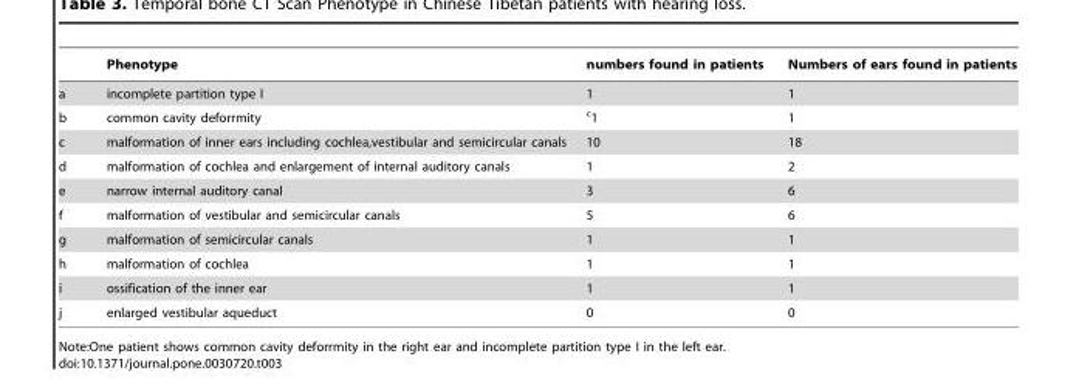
<table><thead><tr><td></td><td>Phenotype</td><td>numbers found in patients</td><td>Numbers of ears found in patients</td></tr></thead><tbody><tr><td>a</td><td>incomplete partition type I</td><td>1</td><td>1</td></tr><tr><td>b</td><td>common cavity deforrmity</td><td><sup>c</sup>1</td><td>1</td></tr><tr><td>c</td><td>malformation of inner ears including cochlea,vestibular and semicircular canals</td><td>10</td><td>18</td></tr><tr><td>d</td><td>malformation of cochlea and enlargement of internal auditory canals</td><td>1</td><td>2</td></tr><tr><td>e</td><td>narrow internal auditory canal</td><td>3</td><td>6</td></tr><tr><td>f</td><td>malformation of vestibular and semicircular canals</td><td>5</td><td>6</td></tr><tr><td>g</td><td>malformation of semicircular canals</td><td>1</td><td>1</td></tr><tr><td>h</td><td>malformation of cochlea</td><td>1</td><td>1</td></tr><tr><td>i</td><td>ossification of the inner ear</td><td>1</td><td>1</td></tr><tr><td>j</td><td>enlarged vestibular aqueduct</td><td>0</td><td>0</td></tr></tbody></table>